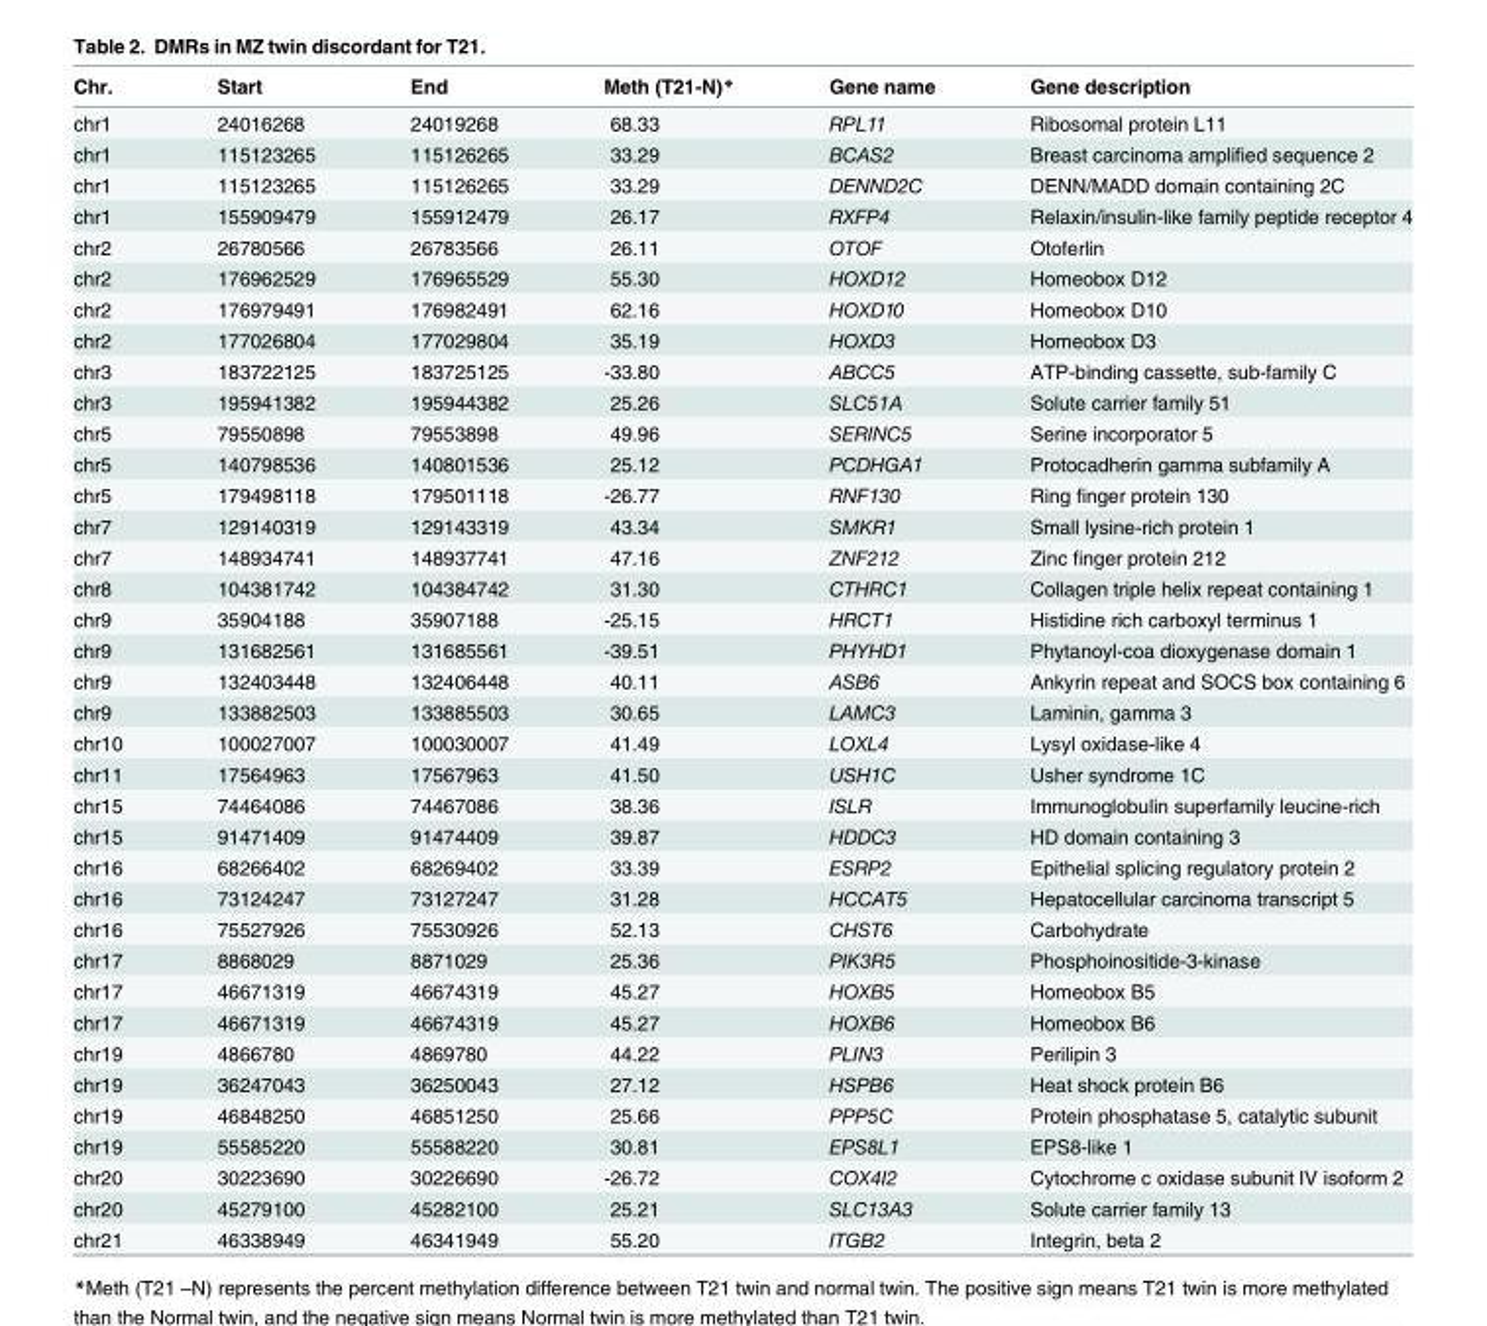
<table><thead><tr><td>Chr.</td><td>Start</td><td>End</td><td>Meth (T21-N)*</td><td>Gene name</td><td>Gene description</td></tr></thead><tbody><tr><td>chr1</td><td>24016268</td><td>24019268</td><td>68.33</td><td>RPL11</td><td>Ribosomal protein L11</td></tr><tr><td>chr1</td><td>115123265</td><td>115126265</td><td>33.29</td><td>BCAS2</td><td>Breast carcinoma amplified sequence 2</td></tr><tr><td>chr1</td><td>115123265</td><td>115126265</td><td>33.29</td><td>DENND2C</td><td>DENN/MADD domain containing 2C</td></tr><tr><td>chr1</td><td>155909479</td><td>155912479</td><td>26.17</td><td>RXFP4</td><td>Relaxin/insulin-like family peptide receptor 4</td></tr><tr><td>chr2</td><td>26780566</td><td>26783566</td><td>26.11</td><td>OTOF</td><td>Otoferlin</td></tr><tr><td>chr2</td><td>176962529</td><td>176965529</td><td>55.30</td><td>HOXD12</td><td>Homeobox D12</td></tr><tr><td>chr2</td><td>176979491</td><td>176982491</td><td>62.16</td><td>HOXD10</td><td>Homeobox D10</td></tr><tr><td>chr2</td><td>177026804</td><td>177029804</td><td>35.19</td><td>HOXD3</td><td>Homeobox D3</td></tr><tr><td>chr3</td><td>183722125</td><td>183725125</td><td>-33.80</td><td>ABCC5</td><td>ATP-binding cassette, sub-family C</td></tr><tr><td>chr3</td><td>195941382</td><td>195944382</td><td>25.26</td><td>SLC51A</td><td>Solute carrier family 51</td></tr><tr><td>chr5</td><td>79550898</td><td>79553898</td><td>49.96</td><td>SERINC5</td><td>Serine incorporator 5</td></tr><tr><td>chr5</td><td>140798536</td><td>140801536</td><td>25.12</td><td>PCDHGA1</td><td>Protocadherin gamma subfamily A</td></tr><tr><td>chr5</td><td>179498118</td><td>179501118</td><td>-26.77</td><td>RNF130</td><td>Ring finger protein 130</td></tr><tr><td>chr7</td><td>129140319</td><td>129143319</td><td>43.34</td><td>SMKR1</td><td>Small lysine-rich protein 1</td></tr><tr><td>chr7</td><td>148934741</td><td>148937741</td><td>47.16</td><td>ZNF212</td><td>Zinc finger protein 212</td></tr><tr><td>chr8</td><td>104381742</td><td>104384742</td><td>31.30</td><td>CTHRC1</td><td>Collagen triple helix repeat containing 1</td></tr><tr><td>chr9</td><td>35904188</td><td>35907188</td><td>-25.15</td><td>HRCT1</td><td>Histidine rich carboxyl terminus 1</td></tr><tr><td>chr9</td><td>131682561</td><td>131685561</td><td>-39.51</td><td>PHYHD1</td><td>Phytanoyl-coa dioxygenase domain 1</td></tr><tr><td>chr9</td><td>132403448</td><td>132406448</td><td>40.11</td><td>ASB6</td><td>Ankyrin repeat and SOCS box containing 6</td></tr><tr><td>chr9</td><td>133882503</td><td>133885503</td><td>30.65</td><td>LAMC3</td><td>Laminin, gamma 3</td></tr><tr><td>chr10</td><td>100027007</td><td>100030007</td><td>41.49</td><td>LOXL4</td><td>Lysyl oxidase-like 4</td></tr><tr><td>chr11</td><td>17564963</td><td>17567963</td><td>41.50</td><td>USH1C</td><td>Usher syndrome 1C</td></tr><tr><td>chr15</td><td>74464086</td><td>74467086</td><td>38.36</td><td>ISLR</td><td>Immunoglobulin superfamily leucine-rich</td></tr><tr><td>chr15</td><td>91471409</td><td>91474409</td><td>39.87</td><td>HDDC3</td><td>HD domain containing 3</td></tr><tr><td>chr16</td><td>68266402</td><td>68269402</td><td>33.39</td><td>ESRP2</td><td>Epithelial splicing regulatory protein 2</td></tr><tr><td>chr16</td><td>73124247</td><td>73127247</td><td>31.28</td><td>HCCAT5</td><td>Hepatocellular carcinoma transcript 5</td></tr><tr><td>chr16</td><td>75527926</td><td>75530926</td><td>52.13</td><td>CHST6</td><td>Carbohydrate</td></tr><tr><td>chr17</td><td>8868029</td><td>8871029</td><td>25.36</td><td>PIK3R5</td><td>Phosphoinositide-3-kinase</td></tr><tr><td>chr17</td><td>46671319</td><td>46674319</td><td>45.27</td><td>HOXB5</td><td>Homeobox B5</td></tr><tr><td>chr17</td><td>46671319</td><td>46674319</td><td>45.27</td><td>HOXB6</td><td>Homeobox B6</td></tr><tr><td>chr19</td><td>4866780</td><td>4869780</td><td>44.22</td><td>PLIN3</td><td>Perilipin 3</td></tr><tr><td>chr19</td><td>36247043</td><td>36250043</td><td>27.12</td><td>HSPB6</td><td>Heat shock protein B6</td></tr><tr><td>chr19</td><td>46848250</td><td>46851250</td><td>25.66</td><td>PPP5C</td><td>Protein phosphatase 5, catalytic subunit</td></tr><tr><td>chr19</td><td>55585220</td><td>55588220</td><td>30.81</td><td>EPS8L1</td><td>EPS8-like 1</td></tr><tr><td>chr20</td><td>30223690</td><td>30226690</td><td>-26.72</td><td>COX4I2</td><td>Cytochrome c oxidase subunit IV isoform 2</td></tr><tr><td>chr20</td><td>45279100</td><td>45282100</td><td>25.21</td><td>SLC13A3</td><td>Solute carrier family 13</td></tr><tr><td>chr21</td><td>46338949</td><td>46341949</td><td>55.20</td><td>ITGB2</td><td>Integrin, beta 2</td></tr></tbody></table>